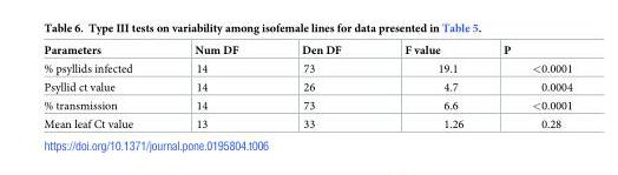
<table><thead><tr><td>Parameters</td><td>Num DF</td><td>Den DF</td><td>F value</td><td>P</td></tr></thead><tbody><tr><td>% psyllids infected</td><td>14</td><td>73</td><td>19.1</td><td>&lt;0.0001</td></tr><tr><td>Psyllid ct value</td><td>14</td><td>26</td><td>4.7</td><td>0.0004</td></tr><tr><td>% transmission</td><td>14</td><td>73</td><td>6.6</td><td>&lt;0.0001</td></tr><tr><td>Mean leaf Ct value</td><td>13</td><td>33</td><td>1.26</td><td>0.28</td></tr></tbody></table>